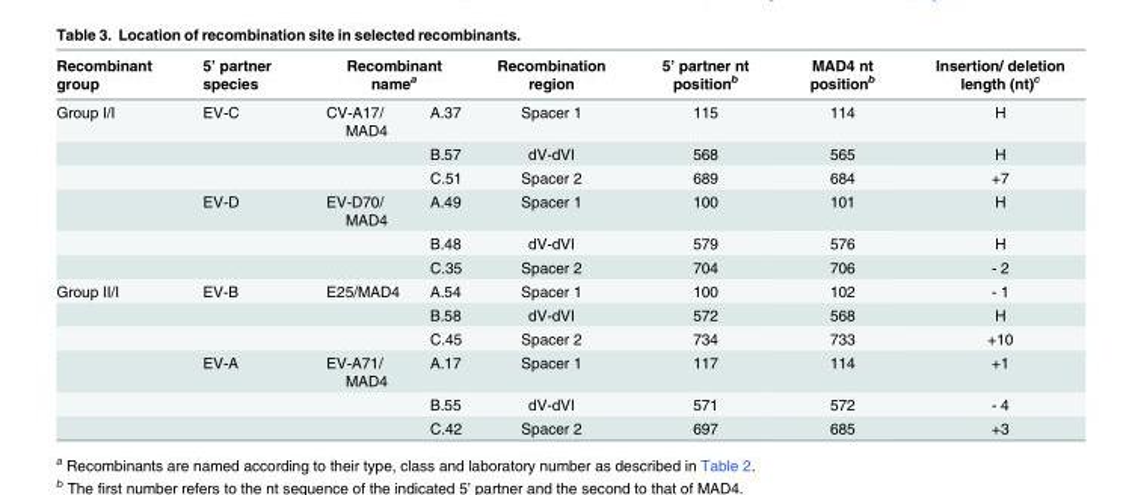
<table><thead><tr><td rowspan="2">Recombinant group Group I/I</td><td rowspan="2">5’ partner species EV-C</td><td colspan="2">Recombinant name<sup>a</sup></td><td rowspan="2">Recombination region Spacer 1</td><td rowspan="2">5’ partner nt position<sup>b</sup> 115</td><td rowspan="2">MAD4 nt position<sup>b</sup> 114</td><td rowspan="2">Insertion/ deletion length (nt)<sup>c</sup> H</td></tr><tr><td>CV-A17/ MAD4</td><td>A.37</td></tr></thead><tbody><tr><td></td><td></td><td></td><td>B.57</td><td>dV-dVI</td><td>568</td><td>565</td><td>H</td></tr><tr><td></td><td></td><td></td><td>C.51</td><td>Spacer 2</td><td>689</td><td>684</td><td>+7</td></tr><tr><td></td><td>EV-D</td><td>EV-D70/ MAD4</td><td>A.49</td><td>Spacer 1</td><td>100</td><td>101</td><td>H</td></tr><tr><td></td><td></td><td></td><td>B.48</td><td>dV-dVI</td><td>579</td><td>576</td><td>H</td></tr><tr><td></td><td></td><td></td><td>C.35</td><td>Spacer 2</td><td>704</td><td>706</td><td>- 2</td></tr><tr><td rowspan="6">Group II/I</td><td>EV-B</td><td>E25/MAD4</td><td>A.54</td><td>Spacer 1</td><td>100</td><td>102</td><td>- 1</td></tr><tr><td></td><td></td><td>B.58</td><td>dV-dVI</td><td>572</td><td>568</td><td>H</td></tr><tr><td></td><td></td><td>C.45</td><td>Spacer 2</td><td>734</td><td>733</td><td>+10</td></tr><tr><td>EV-A</td><td>EV-A71/ MAD4</td><td>A.17</td><td>Spacer 1</td><td>117</td><td>114</td><td>+1</td></tr><tr><td></td><td></td><td>B.55</td><td>dV-dVI</td><td>571</td><td>572</td><td>- 4</td></tr><tr><td></td><td></td><td>C.42</td><td>Spacer 2</td><td>697</td><td>685</td><td>+3</td></tr></tbody></table>